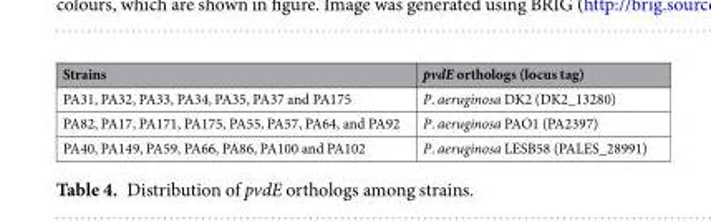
<table><thead><tr><td>Strains</td><td>pvdE orthologs (locus tag)</td></tr></thead><tbody><tr><td>PA31, PA32, PA33, PA34, PA35, PA37 and PA175</td><td>P. aeruginosa DK2 (DK2_13280)</td></tr><tr><td>PA82, PA17, PA171, PA175, PA55, PA57, PA64, and PA92</td><td>P. aeruginosa PAO1 (PA2397)</td></tr><tr><td>PA40, PA149, PA59, PA66, PA86, PA100 and PA102</td><td>P. aeruginosa LESB58 (PALES_28991)</td></tr></tbody></table>